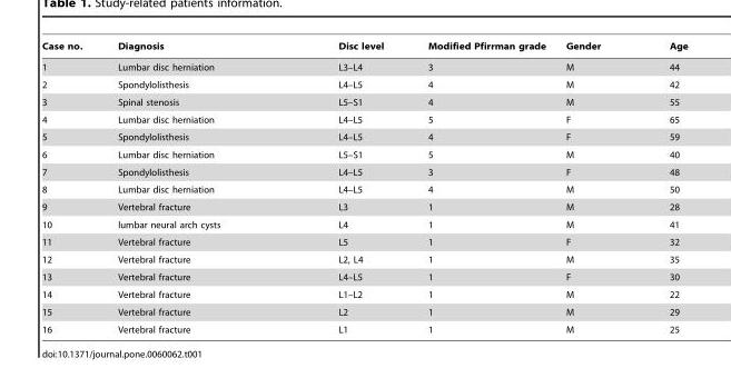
<table><thead><tr><td>Case no.</td><td>Diagnosis</td><td>Disc level</td><td>Modified Pfirrman grade</td><td>Gender</td><td>Age</td></tr></thead><tbody><tr><td>1</td><td>Lumbar disc herniation</td><td>L3–L4</td><td>3</td><td>M</td><td>44</td></tr><tr><td>2</td><td>Spondylolisthesis</td><td>L4–L5</td><td>4</td><td>M</td><td>42</td></tr><tr><td>3</td><td>Spinal stenosis</td><td>L5–S1</td><td>4</td><td>M</td><td>55</td></tr><tr><td>4</td><td>Lumbar disc herniation</td><td>L4–L5</td><td>5</td><td>F</td><td>65</td></tr><tr><td>5</td><td>Spondylolisthesis</td><td>L4–L5</td><td>4</td><td>F</td><td>59</td></tr><tr><td>6</td><td>Lumbar disc herniation</td><td>L5–S1</td><td>5</td><td>M</td><td>40</td></tr><tr><td>7</td><td>Spondylolisthesis</td><td>L4–L5</td><td>3</td><td>F</td><td>48</td></tr><tr><td>8</td><td>Lumbar disc herniation</td><td>L4–L5</td><td>4</td><td>M</td><td>50</td></tr><tr><td>9</td><td>Vertebral fracture</td><td>L3</td><td>1</td><td>M</td><td>28</td></tr><tr><td>10</td><td>lumbar neural arch cysts</td><td>L4</td><td>1</td><td>M</td><td>41</td></tr><tr><td>11</td><td>Vertebral fracture</td><td>L5</td><td>1</td><td>F</td><td>32</td></tr><tr><td>12</td><td>Vertebral fracture</td><td>L2, L4</td><td>1</td><td>M</td><td>35</td></tr><tr><td>13</td><td>Vertebral fracture</td><td>L4–L5</td><td>1</td><td>F</td><td>30</td></tr><tr><td>14</td><td>Vertebral fracture</td><td>L1–L2</td><td>1</td><td>M</td><td>22</td></tr><tr><td>15</td><td>Vertebral fracture</td><td>L2</td><td>1</td><td>M</td><td>29</td></tr><tr><td>16</td><td>Vertebral fracture</td><td>L1</td><td>1</td><td>M</td><td>25</td></tr></tbody></table>